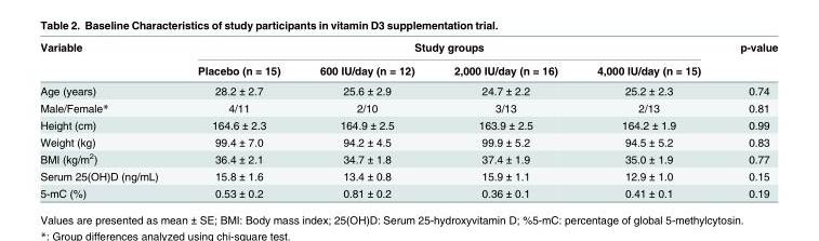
<table><thead><tr><td rowspan="2">Variable</td><td colspan="4">Study groups</td><td rowspan="2">p-value</td></tr><tr><td>Placebo (n = 15)</td><td>600 IU/day (n = 12)</td><td>2,000 IU/day (n = 16)</td><td>4,000 IU/day (n = 15)</td></tr></thead><tbody><tr><td>Age (years)</td><td>28.2 ± 2.7</td><td>25.6 ± 2.9</td><td>24.7 ± 2.2</td><td>25.2 ± 2.3</td><td>0.74</td></tr><tr><td>Male/Female*</td><td>4/11</td><td>2/10</td><td>3/13</td><td>2/13</td><td>0.81</td></tr><tr><td>Height (cm)</td><td>164.6 ± 2.3</td><td>164.9 ± 2.5</td><td>163.9 ± 2.5</td><td>164.2 ± 1.9</td><td>0.99</td></tr><tr><td>Weight (kg)</td><td>99.4 ± 7.0</td><td>94.2 ± 4.5</td><td>99.9 ± 5.2</td><td>94.5 ± 5.2</td><td>0.83</td></tr><tr><td>BMI (kg/m<sup>2</sup>)</td><td>36.4 ± 2.1</td><td>34.7 ± 1.8</td><td>37.4 ± 1.9</td><td>35.0 ± 1.9</td><td>0.77</td></tr><tr><td>Serum 25(OH)D (ng/mL)</td><td>15.8 ± 1.6</td><td>13.4 ± 0.8</td><td>15.9 ± 1.1</td><td>12.9 ± 1.0</td><td>0.15</td></tr><tr><td>5-mC (%)</td><td>0.53 ± 0.2</td><td>0.81 ± 0.2</td><td>0.36 ± 0.1</td><td>0.41 ± 0.1</td><td>0.19</td></tr></tbody></table>